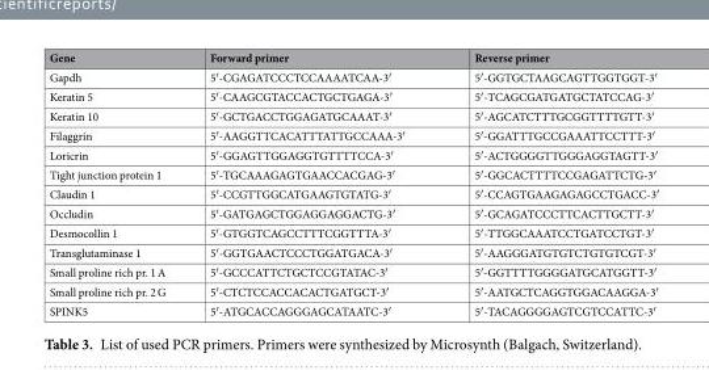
<table><thead><tr><td>Gene</td><td>Forward primer</td><td>Reverse primer</td></tr></thead><tbody><tr><td>Gapdh</td><td>5′-CGAGATCCCTCCAAAATCAA-3′</td><td>5′-GGTGCTAAGCAGTTGGTGGT-3′</td></tr><tr><td>Keratin 5</td><td>5′-CAAGCGTACCACTGCTGAGA-3′</td><td>5′-TCAGCGATGATGCTATCCAG-3′</td></tr><tr><td>Keratin 10</td><td>5′-GCTGACCTGGAGATGCAAAT-3′</td><td>5′-AGCATCTTTGCGGTTTTGTT-3′</td></tr><tr><td>Filaggrin</td><td>5′-AAGGTTCACATTTATTGCCAAA-3′</td><td>5′-GGATTTGCCGAAATTCCTTT-3′</td></tr><tr><td>Loricrin</td><td>5′-GGAGTTGGAGGTGTTTTCCA-3′</td><td>5′-ACTGGGGTTGGGAGGTAGTT-3′</td></tr><tr><td>Tight junction protein 1</td><td>5′-TGCAAAGAGTGAACCACGAG-3′</td><td>5′-GGCACTTTTCCGAGATTCTG-3′</td></tr><tr><td>Claudin 1</td><td>5′-CCGTTGGCATGAAGTGTATG-3′</td><td>5′-CCAGTGAAGAGAGCCTGACC-3′</td></tr><tr><td>Occludin</td><td>5′-GATGAGCTGGAGGAGGACTG-3′</td><td>5′-GCAGATCCCTTCACTTGCTT-3′</td></tr><tr><td>Desmocollin 1</td><td>5′-GTGGTCAGCCTTTCGGTTTA-3′</td><td>5′-TTGGCAAATCCTGATCCTGT-3′</td></tr><tr><td>Transglutaminase 1</td><td>5′-GGTGAACTCCCTGGATGACA-3′</td><td>5′-AAGGGATGTGTCTGTGTCGT-3′</td></tr><tr><td>Small proline rich pr. 1 A</td><td>5′-GCCCATTCTGCTCCGTATAC-3′</td><td>5′-GGTTTTGGGGATGCATGGTT-3′</td></tr><tr><td>Small proline rich pr. 2 G</td><td>5′-CTCTCCACCACACTGATGCT-3′</td><td>5′-AATGCTCAGGTGGACAAGGA-3′</td></tr><tr><td>SPINK5</td><td>5′-ATGCACCAGGGAGCATAATC-3′</td><td>5′-TACAGGGGAGTCGTCCATTC-3′</td></tr></tbody></table>